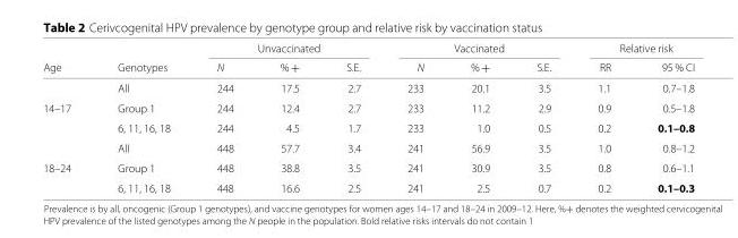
<table><thead><tr><td rowspan="2">Age</td><td rowspan="2">Genotypes</td><td colspan="3">Unvaccinated</td><td colspan="3">Vaccinated</td><td colspan="2">Relative risk</td></tr><tr><td>N</td><td>% +</td><td>S.E.</td><td>N</td><td>% +</td><td>S.E.</td><td>RR</td><td>95 % CI</td></tr></thead><tbody><tr><td></td><td>All</td><td>244</td><td>17.5</td><td>2.7</td><td>233</td><td>20.1</td><td>3.5</td><td>1.1</td><td>0.7–1.8</td></tr><tr><td rowspan="3">14–17</td><td>Group 1</td><td>244</td><td>12.4</td><td>2.7</td><td>233</td><td>11.2</td><td>2.9</td><td>0.9</td><td>0.5–1.8</td></tr><tr><td>6, 11, 16, 18</td><td>244</td><td>4.5</td><td>1.7</td><td>233</td><td>1.0</td><td>0.5</td><td>0.2</td><td>0.1–0.8</td></tr><tr><td>All</td><td>448</td><td>57.7</td><td>3.4</td><td>241</td><td>56.9</td><td>3.5</td><td>1.0</td><td>0.8–1.2</td></tr><tr><td rowspan="2">18–24</td><td>Group 1</td><td>448</td><td>38.8</td><td>3.5</td><td>241</td><td>30.9</td><td>3.5</td><td>0.8</td><td>0.6–1.1</td></tr><tr><td>6, 11, 16, 18</td><td>448</td><td>16.6</td><td>2.5</td><td>241</td><td>2.5</td><td>0.7</td><td>0.2</td><td>0.1–0.3</td></tr></tbody></table>